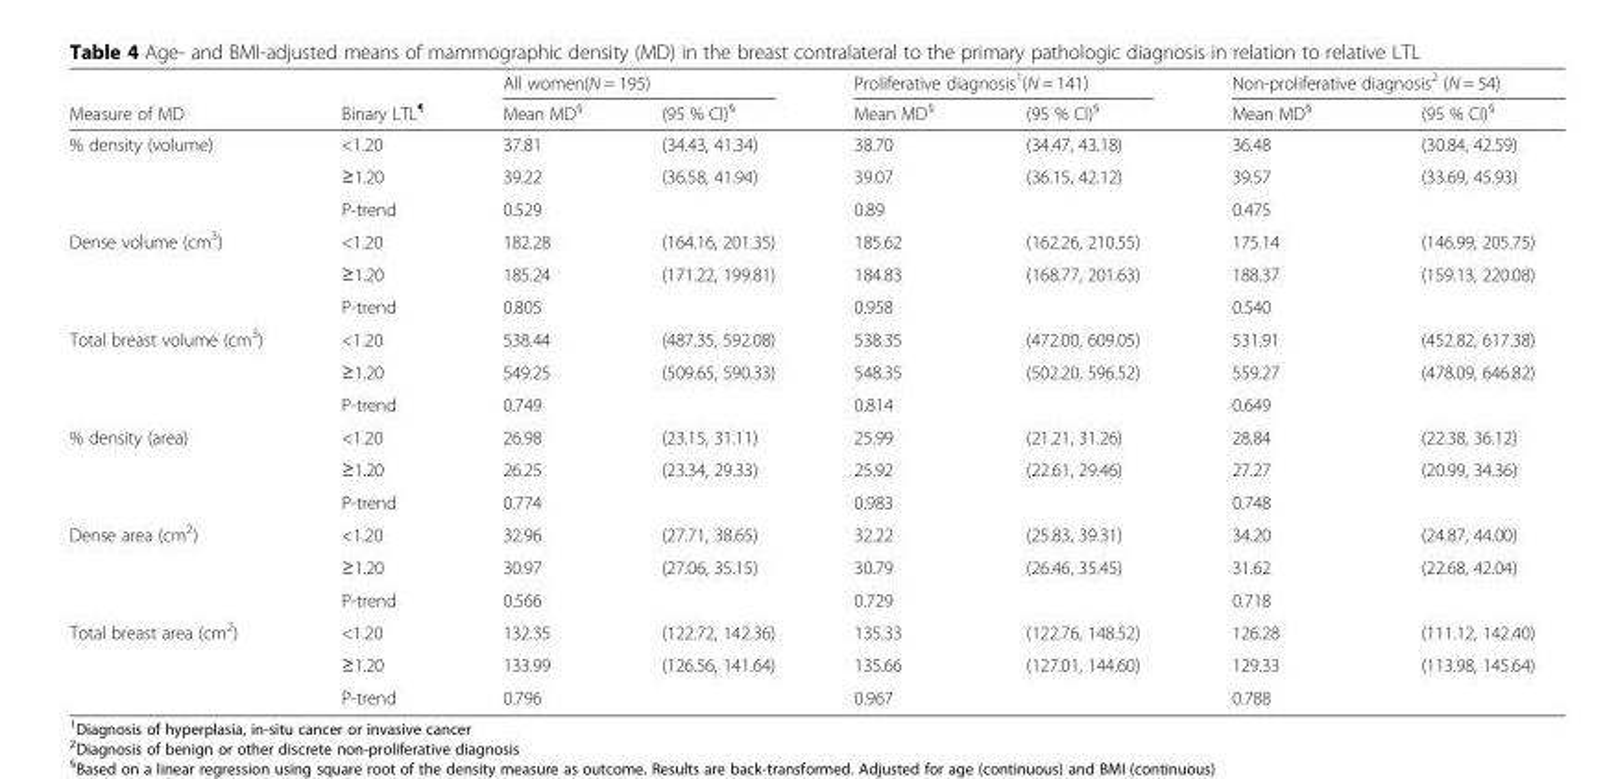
<table><thead><tr><td rowspan="2">Measure of MD</td><td rowspan="2">Binary LTL<sup>¶</sup></td><td colspan="2">All women(N = 195)</td><td colspan="2">Proliferative diagnosis<sup>1</sup>(N = 141)</td><td colspan="2">Non-proliferative diagnosis<sup>2</sup> (N = 54)</td></tr><tr><td>Mean MD<sup>§</sup></td><td>(95 % CI)<sup>§</sup></td><td>Mean MD<sup>§</sup></td><td>(95 % CI)<sup>§</sup></td><td>Mean MD<sup>§</sup></td><td>(95 % CI)<sup>§</sup></td></tr></thead><tbody><tr><td rowspan="3">% density (volume)</td><td>&lt;1.20</td><td>37.81</td><td>(34.43, 41.34)</td><td>38.70</td><td>(34.47, 43.18)</td><td>36.48</td><td>(30.84, 42.59)</td></tr><tr><td>≥1.20</td><td>39.22</td><td>(36.58, 41.94)</td><td>39.07</td><td>(36.15, 42.12)</td><td>39.57</td><td>(33.69, 45.93)</td></tr><tr><td>P-trend</td><td colspan="2">0.529</td><td colspan="2">0.89</td><td colspan="2">0.475</td></tr><tr><td rowspan="3">Dense volume (cm<sup>3</sup>)</td><td>&lt;1.20</td><td>182.28</td><td>(164.16, 201.35)</td><td>185.62</td><td>(162.26, 210.55)</td><td>175.14</td><td>(146.99, 205.75)</td></tr><tr><td>≥1.20</td><td>185.24</td><td>(171.22, 199.81)</td><td>184.83</td><td>(168.77, 201.63)</td><td>188.37</td><td>(159.13, 220.08)</td></tr><tr><td>P-trend</td><td colspan="2">0.805</td><td colspan="2">0.958</td><td colspan="2">0.540</td></tr><tr><td rowspan="3">Total breast volume (cm<sup>3</sup>)</td><td>&lt;1.20</td><td>538.44</td><td>(487.35, 592.08)</td><td>538.35</td><td>(472.00, 609.05)</td><td>531.91</td><td>(452.82, 617.38)</td></tr><tr><td>≥1.20</td><td>549.25</td><td>(509.65, 590.33)</td><td>548.35</td><td>(502.20, 596.52)</td><td>559.27</td><td>(478.09, 646.82)</td></tr><tr><td>P-trend</td><td colspan="2">0.749</td><td colspan="2">0.814</td><td colspan="2">0.649</td></tr><tr><td rowspan="3">% density (area)</td><td>&lt;1.20</td><td>26.98</td><td>(23.15, 31.11)</td><td>25.99</td><td>(21.21, 31.26)</td><td>28.84</td><td>(22.38, 36.12)</td></tr><tr><td>≥1.20</td><td>26.25</td><td>(23.34, 29.33)</td><td>25.92</td><td>(22.61, 29.46)</td><td>27.27</td><td>(20.99, 34.36)</td></tr><tr><td>P-trend</td><td colspan="2">0.774</td><td colspan="2">0.983</td><td colspan="2">0.748</td></tr><tr><td rowspan="3">Dense area (cm<sup>2</sup>)</td><td>&lt;1.20</td><td>32.96</td><td>(27.71, 38.65)</td><td>32.22</td><td>(25.83, 39.31)</td><td>34.20</td><td>(24.87, 44.00)</td></tr><tr><td>≥1.20</td><td>30.97</td><td>(27.06, 35.15)</td><td>30.79</td><td>(26.46, 35.45)</td><td>31.62</td><td>(22.68, 42.04)</td></tr><tr><td>P-trend</td><td colspan="2">0.566</td><td colspan="2">0.729</td><td colspan="2">0.718</td></tr><tr><td rowspan="3">Total breast area (cm<sup>2</sup>)</td><td>&lt;1.20</td><td>132.35</td><td>(122.72, 142.36)</td><td>135.33</td><td>(122.76, 148.52)</td><td>126.28</td><td>(111.12, 142.40)</td></tr><tr><td>≥1.20</td><td>133.99</td><td>(126.56, 141.64)</td><td>135.66</td><td>(127.01, 144.60)</td><td>129.33</td><td>(113.98, 145.64)</td></tr><tr><td>P-trend</td><td colspan="2">0.796</td><td colspan="2">0.967</td><td colspan="2">0.788</td></tr></tbody></table>